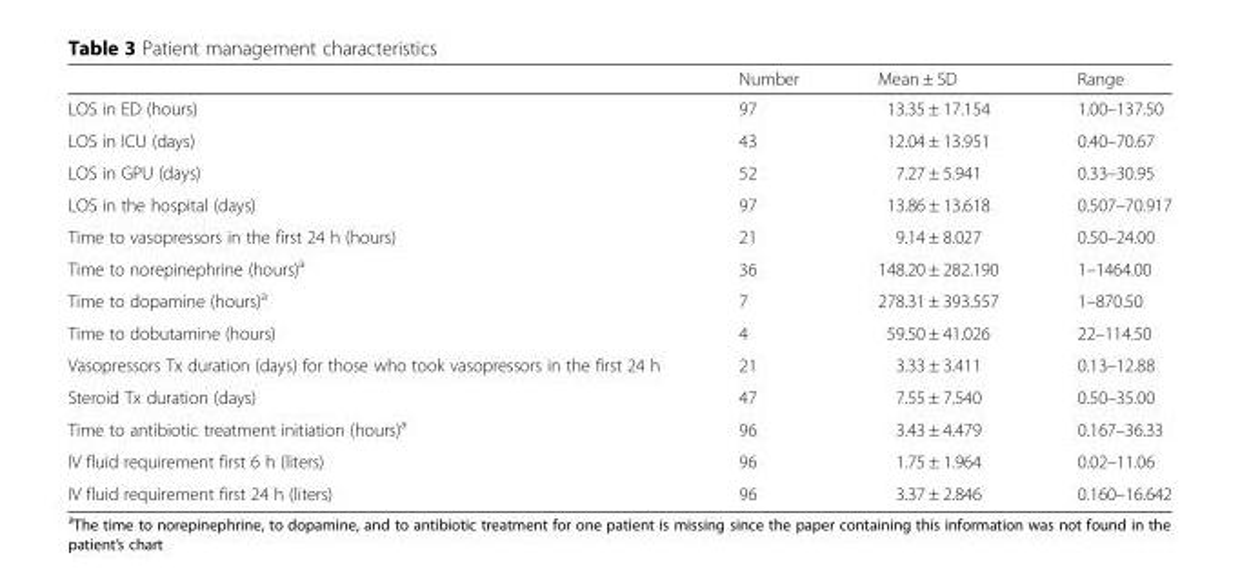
<table><thead><tr><td></td><td>Number</td><td>Mean ± SD</td><td>Range</td></tr></thead><tbody><tr><td>LOS in ED (hours)</td><td>97</td><td>13.35 ± 17.154</td><td>1.00–137.50</td></tr><tr><td>LOS in ICU (days)</td><td>43</td><td>12.04 ± 13.951</td><td>0.40–70.67</td></tr><tr><td>LOS in GPU (days)</td><td>52</td><td>7.27 ± 5.941</td><td>0.33–30.95</td></tr><tr><td>LOS in the hospital (days)</td><td>97</td><td>13.86 ± 13.618</td><td>0.507–70.917</td></tr><tr><td>Time to vasopressors in the first 24 h (hours)</td><td>21</td><td>9.14 ± 8.027</td><td>0.50–24.00</td></tr><tr><td>Time to norepinephrine (hours)<sup>a</sup></td><td>36</td><td>148.20 ± 282.190</td><td>1–1464.00</td></tr><tr><td>Time to dopamine (hours)<sup>a</sup></td><td>7</td><td>278.31 ± 393.557</td><td>1–870.50</td></tr><tr><td>Time to dobutamine (hours)</td><td>4</td><td>59.50 ± 41.026</td><td>22–114.50</td></tr><tr><td>Vasopressors Tx duration (days) for those who took vasopressors in the first 24 h</td><td>21</td><td>3.33 ± 3.411</td><td>0.13–12.88</td></tr><tr><td>Steroid Tx duration (days)</td><td>47</td><td>7.55 ± 7.540</td><td>0.50–35.00</td></tr><tr><td>Time to antibiotic treatment initiation (hours)<sup>a</sup></td><td>96</td><td>3.43 ± 4.479</td><td>0.167–36.33</td></tr><tr><td>IV fluid requirement first 6 h (liters)</td><td>96</td><td>1.75 ± 1.964</td><td>0.02–11.06</td></tr><tr><td>IV fluid requirement first 24 h (liters)</td><td>96</td><td>3.37 ± 2.846</td><td>0.160–16.642</td></tr></tbody></table>